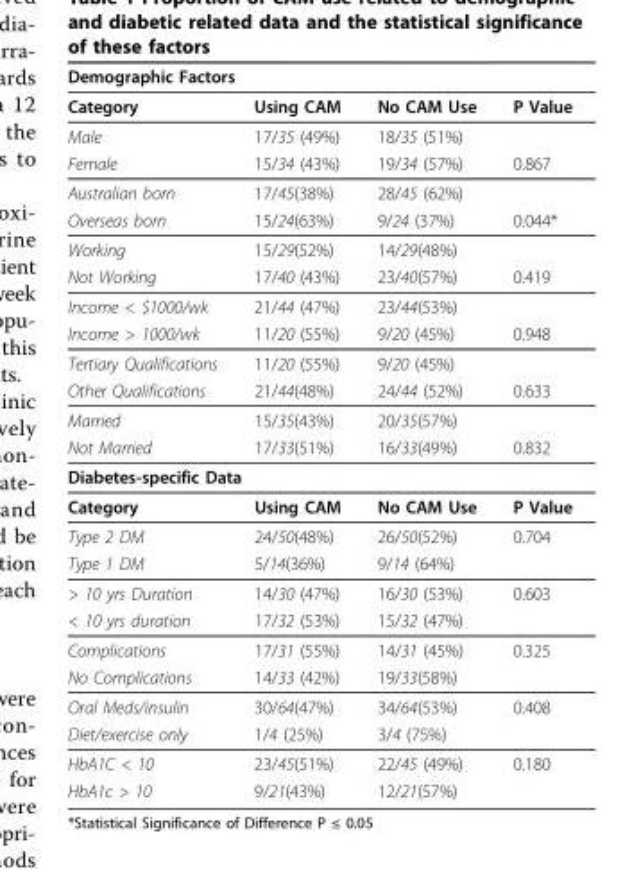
<table><thead><tr><td colspan="4">Demographic Factors</td></tr><tr><td>Category</td><td>Using CAM</td><td>No CAM Use</td><td>P Value</td></tr></thead><tbody><tr><td>Male</td><td>17/35 (49%)</td><td>18/35 (51%)</td><td></td></tr><tr><td>Female</td><td>15/34 (43%)</td><td>19/34 (57%)</td><td>0.867</td></tr><tr><td>Australian born</td><td>17/45(38%)</td><td>28/45 (62%)</td><td></td></tr><tr><td>Overseas born</td><td>15/24(63%)</td><td>9/24 (37%)</td><td>0.044*</td></tr><tr><td>Working</td><td>15/29(52%)</td><td>14/29(48%)</td><td></td></tr><tr><td>Not Working</td><td>17/40 (43%)</td><td>23/40(57%)</td><td>0.419</td></tr><tr><td>Income &lt; $1000/wk</td><td>21/44 (47%)</td><td>23/44(53%)</td><td></td></tr><tr><td>Income &gt; 1000/wk</td><td>11/20 (55%)</td><td>9/20 (45%)</td><td>0.948</td></tr><tr><td>Tertiary Qualifications</td><td>11/20 (55%)</td><td>9/20 (45%)</td><td></td></tr><tr><td>Other Qualifications</td><td>21/44(48%)</td><td>24/44 (52%)</td><td>0.633</td></tr><tr><td>Married</td><td>15/35(43%)</td><td>20/35(57%)</td><td></td></tr><tr><td>Not Married</td><td>17/33(51%)</td><td>16/33(49%)</td><td>0.832</td></tr><tr><td colspan="4">Diabetes-specific Data</td></tr><tr><td>Category</td><td>Using CAM</td><td>No CAM Use</td><td>P Value</td></tr><tr><td>Type 2 DM</td><td>24/50(48%)</td><td>26/50(52%)</td><td>0.704</td></tr><tr><td>Type 1 DM</td><td>5/14(36%)</td><td>9/14 (64%)</td><td></td></tr><tr><td>&gt; 10 yrs Duration</td><td>14/30 (47%)</td><td>16/30 (53%)</td><td>0.603</td></tr><tr><td>&lt; 10 yrs duration</td><td>17/32 (53%)</td><td>15/32 (47%)</td><td></td></tr><tr><td>Complications</td><td>17/31 (55%)</td><td>14/31 (45%)</td><td>0.325</td></tr><tr><td>No Complications</td><td>14/33 (42%)</td><td>19/33(58%)</td><td></td></tr><tr><td>Oral Meds/insulin</td><td>30/64(47%)</td><td>34/64(53%)</td><td>0.408</td></tr><tr><td>Diet/exercise only</td><td>1/4 (25%)</td><td>3/4 (75%)</td><td></td></tr><tr><td>HbA1C &lt; 10</td><td>23/45(51%)</td><td>22/45 (49%)</td><td>0.180</td></tr><tr><td>HbA1c &gt; 10</td><td>9/21(43%)</td><td>12/21(57%)</td><td></td></tr></tbody></table>